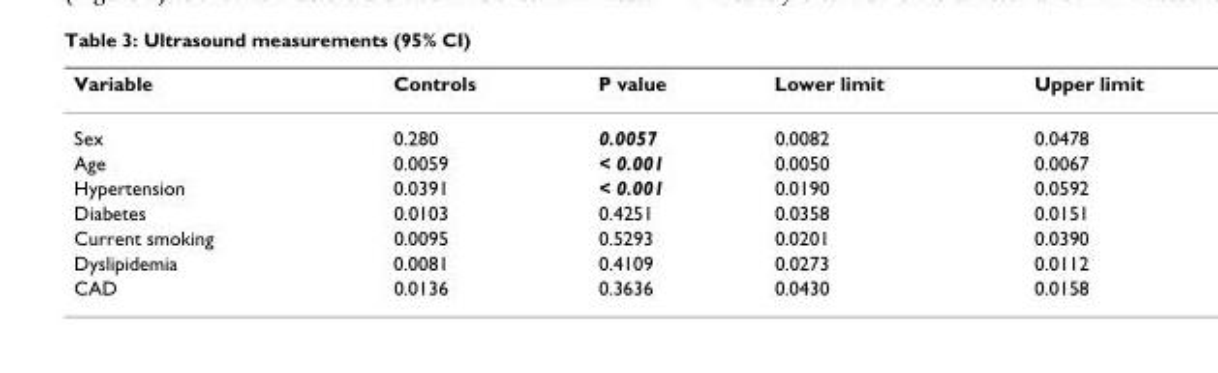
<table><thead><tr><td>Variable</td><td>Controls</td><td>P value</td><td>Lower limit</td><td>Upper limit</td></tr></thead><tbody><tr><td>Sex</td><td>0.280</td><td>0.0057</td><td>0.0082</td><td>0.0478</td></tr><tr><td>Age</td><td>0.0059</td><td>&lt; 0.001</td><td>0.0050</td><td>0.0067</td></tr><tr><td>Hypertension</td><td>0.0391</td><td>&lt; 0.001</td><td>0.0190</td><td>0.0592</td></tr><tr><td>Diabetes</td><td>0.0103</td><td>0.4251</td><td>0.0358</td><td>0.0151</td></tr><tr><td>Current smoking</td><td>0.0095</td><td>0.5293</td><td>0.0201</td><td>0.0390</td></tr><tr><td>Dyslipidemia</td><td>0.0081</td><td>0.4109</td><td>0.0273</td><td>0.0112</td></tr><tr><td>CAD</td><td>0.0136</td><td>0.3636</td><td>0.0430</td><td>0.0158</td></tr></tbody></table>